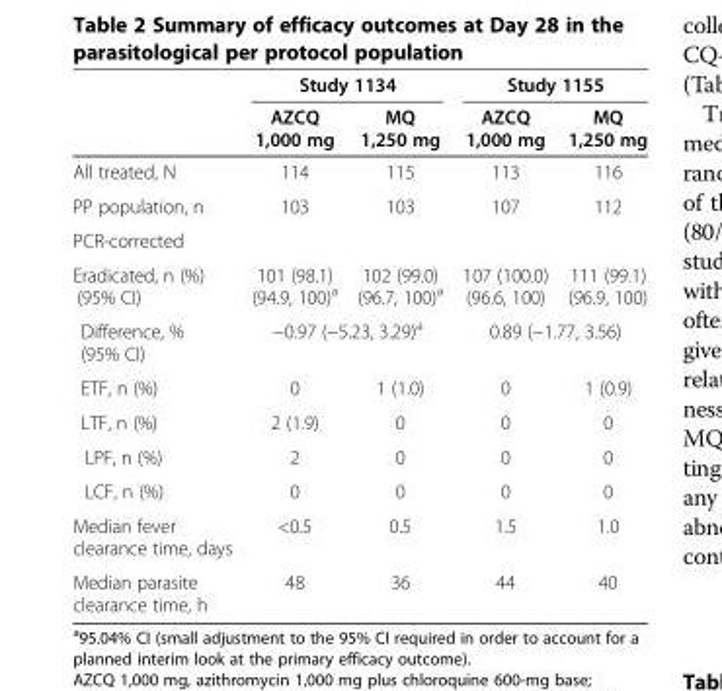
<table><thead><tr><td rowspan="2"></td><td colspan="2">Study 1134</td><td colspan="2">Study 1155</td></tr><tr><td>AZCQ 1,000 mg</td><td>MQ 1,250 mg</td><td>AZCQ 1,000 mg</td><td>MQ 1,250 mg</td></tr></thead><tbody><tr><td>All treated, N</td><td>114</td><td>115</td><td>113</td><td>116</td></tr><tr><td>PP population, n</td><td>103</td><td>103</td><td>107</td><td>112</td></tr><tr><td colspan="5">PCR-corrected</td></tr><tr><td>Eradicated, n (%) (95% CI)</td><td>101 (98.1) (94.9, 100)<sup>a</sup></td><td>102 (99.0) (96.7, 100)<sup>a</sup></td><td>107 (100.0) (96.6, 100)</td><td>111 (99.1) (96.9, 100)</td></tr><tr><td>Difference, % (95% CI)</td><td colspan="2">−0.97 (−5.23, 3.29)<sup>a</sup></td><td colspan="2">0.89 (−1.77, 3.56)</td></tr><tr><td>ETF, n (%)</td><td>0</td><td>1 (1.0)</td><td>0</td><td>1 (0.9)</td></tr><tr><td>LTF, n (%)</td><td>2 (1.9)</td><td>0</td><td>0</td><td>0</td></tr><tr><td>LPF, n (%)</td><td>2</td><td>0</td><td>0</td><td>0</td></tr><tr><td>LCF, n (%)</td><td>0</td><td>0</td><td>0</td><td>0</td></tr><tr><td>Median fever clearance time, days</td><td>&lt;0.5</td><td>0.5</td><td>1.5</td><td>1.0</td></tr><tr><td>Median parasite clearance time, h</td><td>48</td><td>36</td><td>44</td><td>40</td></tr></tbody></table>